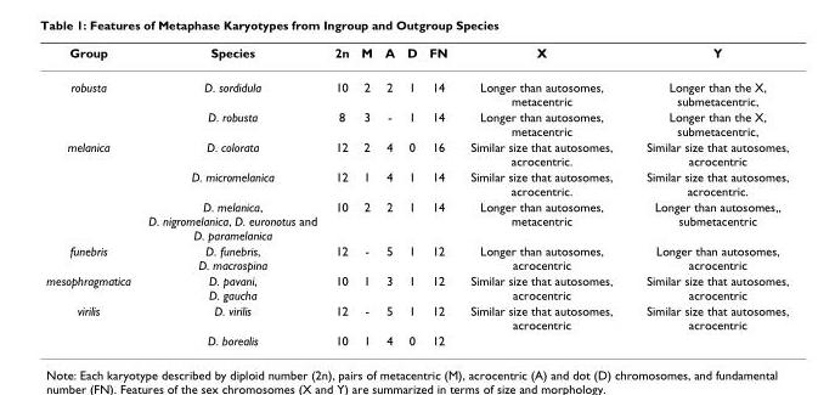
<table><thead><tr><td>Group</td><td>Species</td><td>2n</td><td>M</td><td>A</td><td>D</td><td>FN</td><td>X</td><td>Y</td></tr></thead><tbody><tr><td rowspan="2">robusta</td><td>D. sordidula</td><td>10</td><td>2</td><td>2</td><td>1</td><td>14</td><td>Longer than autosomes, metacentric</td><td>Longer than the X, submetacentric,</td></tr><tr><td>D. robusta</td><td>8</td><td>3</td><td>-</td><td>1</td><td>14</td><td>Longer than autosomes, metacentric</td><td>Longer than the X, submetacentric,</td></tr><tr><td rowspan="3">melanica</td><td>D. colorata</td><td>12</td><td>2</td><td>4</td><td>0</td><td>16</td><td>Similar size that autosomes, acrocentric.</td><td>Similar size that autosomes, acrocentric</td></tr><tr><td>D. micromelanica</td><td>12</td><td>1</td><td>4</td><td>1</td><td>14</td><td>Similar size that autosomes, acrocentric.</td><td>Similar size that autosomes, acrocentric.</td></tr><tr><td>D. melanica, D. nigromelanica, D. euronotus and D. paramelanica</td><td>10</td><td>2</td><td>2</td><td>1</td><td>14</td><td>Longer than autosomes, metacentric</td><td>Longer than autosomes,, submetacentric</td></tr><tr><td>funebris</td><td>D. funebris, D. macrospina</td><td>12</td><td>-</td><td>5</td><td>1</td><td>12</td><td>Longer than autosomes, acrocentric</td><td>Longer than autosomes, acrocentric</td></tr><tr><td>mesophragmatica</td><td>D. pavani, D. gaucha</td><td>10</td><td>1</td><td>3</td><td>1</td><td>12</td><td>Similar size that autosomes, acrocentric</td><td>Similar size that autosomes, acrocentric</td></tr><tr><td rowspan="2">virilis</td><td>D. virilis</td><td>12</td><td>-</td><td>5</td><td>1</td><td>12</td><td>Similar size that autosomes, acrocentric</td><td>Similar size that autosomes, acrocentric</td></tr><tr><td>D. borealis</td><td>10</td><td>1</td><td>4</td><td>0</td><td>12</td><td></td><td></td></tr></tbody></table>